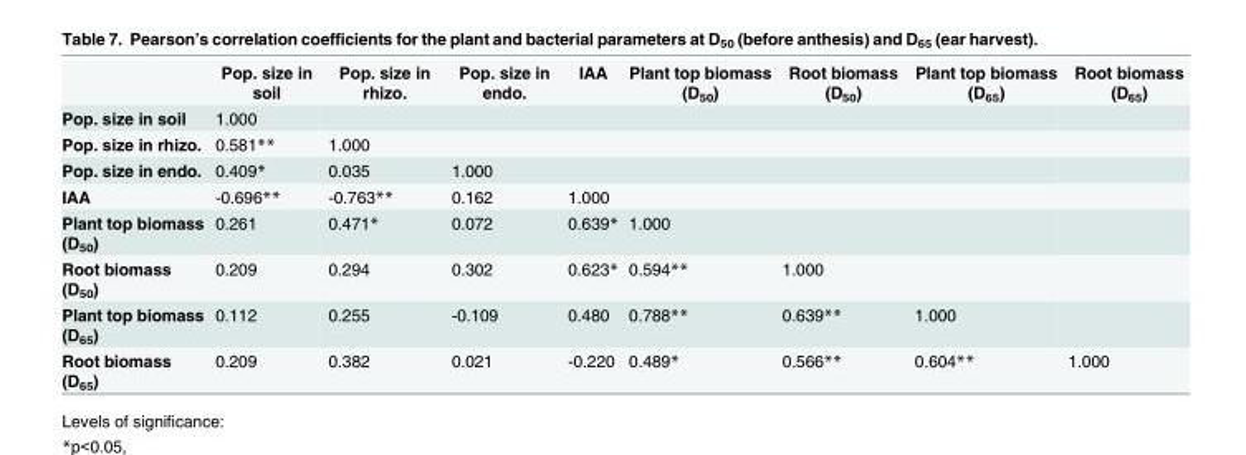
<table><thead><tr><td></td><td>Pop. size in soil</td><td>Pop. size in rhizo.</td><td>Pop. size in endo.</td><td>IAA</td><td>Plant top biomass (D<sub>50</sub>)</td><td>Root biomass (D<sub>50</sub>)</td><td>Plant top biomass (D<sub>65</sub>)</td><td>Root biomass (D<sub>65</sub>)</td></tr></thead><tbody><tr><td>Pop. size in soil</td><td>1.000</td><td></td><td></td><td></td><td></td><td></td><td></td><td></td></tr><tr><td>Pop. size in rhizo.</td><td>0.581**</td><td>1.000</td><td></td><td></td><td></td><td></td><td></td><td></td></tr><tr><td>Pop. size in endo.</td><td>0.409*</td><td>0.035</td><td>1.000</td><td></td><td></td><td></td><td></td><td></td></tr><tr><td>IAA</td><td>-0.696**</td><td>-0.763**</td><td>0.162</td><td>1.000</td><td></td><td></td><td></td><td></td></tr><tr><td>Plant top biomass (D<sub>50</sub>)</td><td>0.261</td><td>0.471*</td><td>0.072</td><td>0.639*</td><td>1.000</td><td></td><td></td><td></td></tr><tr><td>Root biomass (D<sub>50</sub>)</td><td>0.209</td><td>0.294</td><td>0.302</td><td>0.623*</td><td>0.594**</td><td>1.000</td><td></td><td></td></tr><tr><td>Plant top biomass (D<sub>65</sub>)</td><td>0.112</td><td>0.255</td><td>-0.109</td><td>0.480</td><td>0.788**</td><td>0.639**</td><td>1.000</td><td></td></tr><tr><td>Root biomass (D<sub>65</sub>)</td><td>0.209</td><td>0.382</td><td>0.021</td><td>-0.220</td><td>0.489*</td><td>0.566**</td><td>0.604**</td><td>1.000</td></tr></tbody></table>